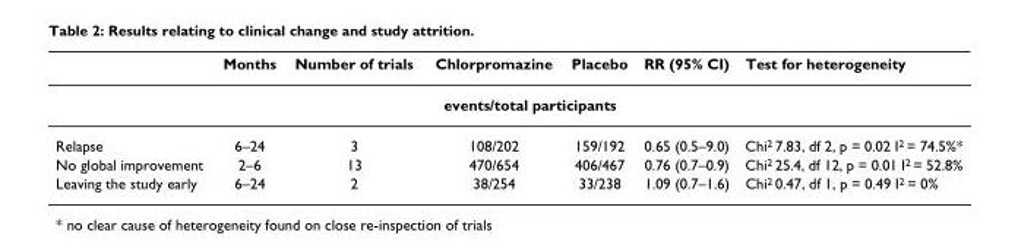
<table><thead><tr><td></td><td>Months</td><td>Number of trials</td><td>Chlorpromazine</td><td>Placebo</td><td>RR (95% CI)</td><td>Test for heterogeneity</td></tr></thead><tbody><tr><td></td><td></td><td></td><td colspan="2">events/total participants</td><td></td><td></td></tr><tr><td>Relapse</td><td>6–24</td><td>3</td><td>108/202</td><td>159/192</td><td>0.65 (0.5–9.0)</td><td>Chi<sup>2</sup> 7.83, df 2, p = 0.02 I<sup>2</sup> = 74.5%*</td></tr><tr><td>No global improvement</td><td>2–6</td><td>13</td><td>470/654</td><td>406/467</td><td>0.76 (0.7–0.9)</td><td>Chi<sup>2</sup> 25.4, df 12, p = 0.01 I<sup>2</sup> = 52.8%</td></tr><tr><td>Leaving the study early</td><td>6–24</td><td>2</td><td>38/254</td><td>33/238</td><td>1.09 (0.7–1.6)</td><td>Chi<sup>2</sup> 0.47, df 1, p = 0.49 I<sup>2</sup> = 0%</td></tr></tbody></table>